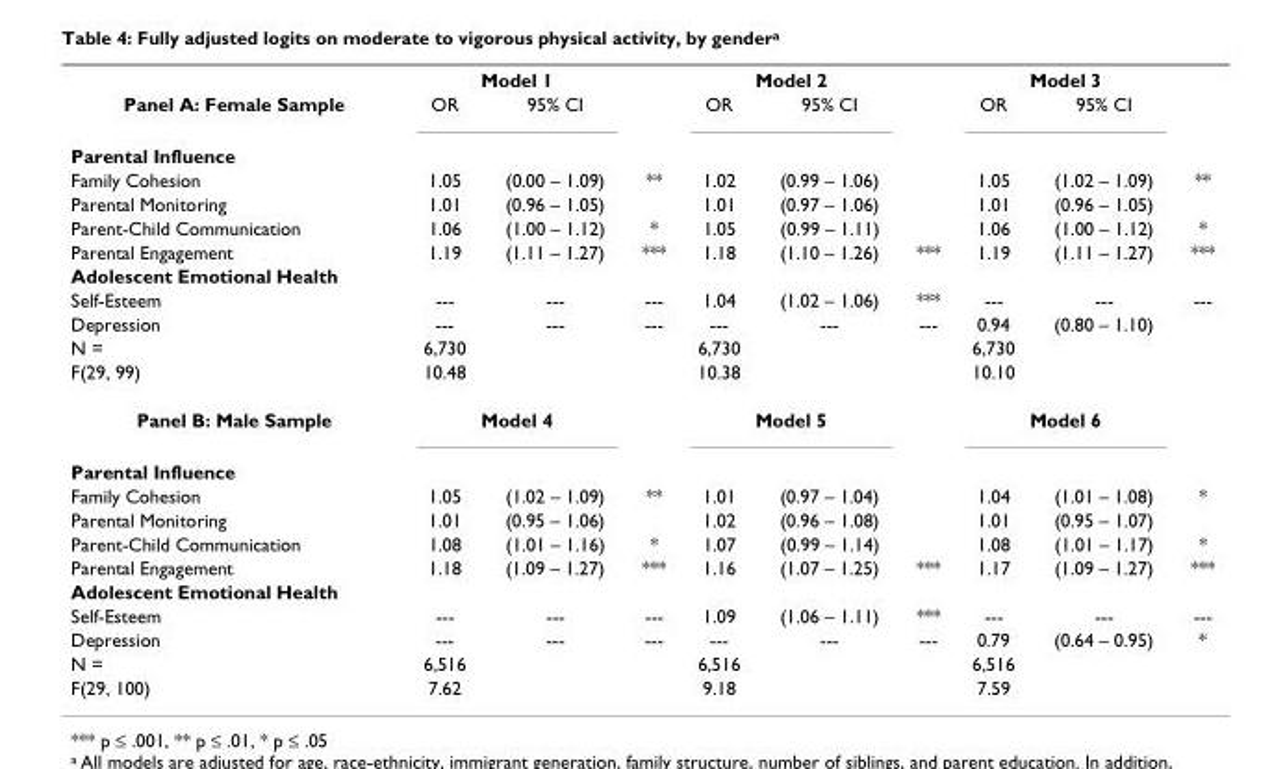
<table><thead><tr><td rowspan="2">Panel A: Female Sample</td><td colspan="2">Model 1</td><td rowspan="2"></td><td colspan="2">Model 2</td><td rowspan="2"></td><td colspan="2">Model 3</td><td rowspan="2"></td></tr><tr><td>OR</td><td>95% CI</td><td>OR</td><td>95% CI</td><td>OR</td><td>95% CI</td></tr></thead><tbody><tr><td colspan="10">Parental Influence</td></tr><tr><td>Family Cohesion</td><td>1.05</td><td>(0.00 – 1.09)</td><td>**</td><td>1.02</td><td>(0.99 – 1.06)</td><td></td><td>1.05</td><td>(1.02 – 1.09)</td><td>**</td></tr><tr><td>Parental Monitoring</td><td>1.01</td><td>(0.96 – 1.05)</td><td></td><td>1.01</td><td>(0.97 – 1.06)</td><td></td><td>1.01</td><td>(0.96 – 1.05)</td><td></td></tr><tr><td>Parent-Child Communication</td><td>1.06</td><td>(1.00 – 1.12)</td><td>*</td><td>1.05</td><td>(0.99 – 1.11)</td><td></td><td>1.06</td><td>(1.00 – 1.12)</td><td>*</td></tr><tr><td>Parental Engagement</td><td>1.19</td><td>(1.11 – 1.27)</td><td>***</td><td>1.18</td><td>(1.10 – 1.26)</td><td>***</td><td>1.19</td><td>(1.11 – 1.27)</td><td>***</td></tr><tr><td colspan="10">Adolescent Emotional Health</td></tr><tr><td>Self-Esteem</td><td>---</td><td>---</td><td>---</td><td>1.04</td><td>(1.02 – 1.06)</td><td>***</td><td>---</td><td>---</td><td>---</td></tr><tr><td>Depression</td><td>---</td><td>---</td><td>---</td><td>---</td><td>---</td><td>---</td><td>0.94</td><td>(0.80 – 1.10)</td><td></td></tr><tr><td>N =</td><td>6,730</td><td></td><td></td><td>6,730</td><td></td><td></td><td>6,730</td><td></td><td></td></tr><tr><td>F(29, 99)</td><td>10.48</td><td></td><td></td><td>10.38</td><td></td><td></td><td>10.10</td><td></td><td></td></tr><tr><td>Panel B: Male Sample</td><td colspan="2">Model 4</td><td></td><td colspan="2">Model 5</td><td></td><td colspan="2">Model 6</td><td></td></tr><tr><td colspan="10">Parental Influence</td></tr><tr><td>Family Cohesion</td><td>1.05</td><td>(1.02 – 1.09)</td><td>**</td><td>1.01</td><td>(0.97 – 1.04)</td><td></td><td>1.04</td><td>(1.01 – 1.08)</td><td>*</td></tr><tr><td>Parental Monitoring</td><td>1.01</td><td>(0.95 – 1.06)</td><td></td><td>1.02</td><td>(0.96 – 1.08)</td><td></td><td>1.01</td><td>(0.95 – 1.07)</td><td></td></tr><tr><td>Parent-Child Communication</td><td>1.08</td><td>(1.01 – 1.16)</td><td>*</td><td>1.07</td><td>(0.99 – 1.14)</td><td></td><td>1.08</td><td>(1.01 – 1.17)</td><td>*</td></tr><tr><td>Parental Engagement</td><td>1.18</td><td>(1.09 – 1.27)</td><td>***</td><td>1.16</td><td>(1.07 – 1.25)</td><td>***</td><td>1.17</td><td>(1.09 – 1.27)</td><td>***</td></tr><tr><td colspan="10">Adolescent Emotional Health</td></tr><tr><td>Self-Esteem</td><td>---</td><td>---</td><td>---</td><td>1.09</td><td>(1.06 – 1.11)</td><td>***</td><td>---</td><td>---</td><td>---</td></tr><tr><td>Depression</td><td>---</td><td>---</td><td>---</td><td>---</td><td>---</td><td>---</td><td>0.79</td><td>(0.64 – 0.95)</td><td>*</td></tr><tr><td>N =</td><td>6,516</td><td></td><td></td><td>6,516</td><td></td><td></td><td>6,516</td><td></td><td></td></tr><tr><td>F(29, 100)</td><td>7.62</td><td></td><td></td><td>9.18</td><td></td><td></td><td>7.59</td><td></td><td></td></tr></tbody></table>